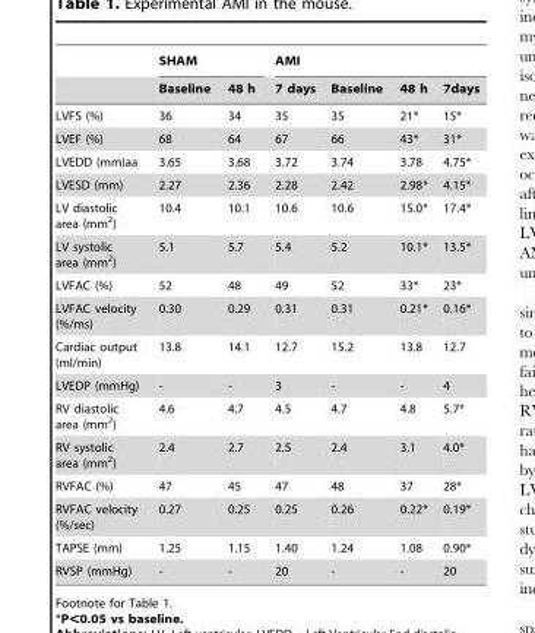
<table><thead><tr><td rowspan="2"></td><td colspan="2">SHAM</td><td colspan="4">AMI</td></tr><tr><td>Baseline</td><td>48 h</td><td>7 days</td><td>Baseline</td><td>48 h</td><td>7days</td></tr></thead><tbody><tr><td>LVFS (%)</td><td>36</td><td>34</td><td>35</td><td>35</td><td>21*</td><td>15*</td></tr><tr><td>LVEF (%)</td><td>68</td><td>64</td><td>67</td><td>66</td><td>43*</td><td>31*</td></tr><tr><td>LVEDD (mm)aa</td><td>3.65</td><td>3.68</td><td>3.72</td><td>3.74</td><td>3.78</td><td>4.75*</td></tr><tr><td>LVESD (mm)</td><td>2.27</td><td>2.36</td><td>2.28</td><td>2.42</td><td>2.98*</td><td>4.15*</td></tr><tr><td>LV diastolic area (mm<sup>2</sup>)</td><td>10.4</td><td>10.1</td><td>10.6</td><td>10.6</td><td>15.0*</td><td>17.4*</td></tr><tr><td>LV systolic area (mm<sup>2</sup>)</td><td>5.1</td><td>5.7</td><td>5.4</td><td>5.2</td><td>10.1*</td><td>13.5*</td></tr><tr><td>LVFAC (%)</td><td>52</td><td>48</td><td>49</td><td>52</td><td>33*</td><td>23*</td></tr><tr><td>LVFAC velocity (%/ms)</td><td>0.30</td><td>0.29</td><td>0.31</td><td>0.31</td><td>0.21*</td><td>0.16*</td></tr><tr><td>Cardiac output (ml/min)</td><td>13.8</td><td>14.1</td><td>12.7</td><td>15.2</td><td>13.8</td><td>12.7</td></tr><tr><td>LVEDP (mmHg)</td><td>-</td><td>-</td><td>3</td><td>-</td><td>-</td><td>4</td></tr><tr><td>RV diastolic area (mm<sup>2</sup>)</td><td>4.6</td><td>4.7</td><td>4.5</td><td>4.7</td><td>4.8</td><td>5.7*</td></tr><tr><td>RV systolic area (mm<sup>2</sup>)</td><td>2.4</td><td>2.7</td><td>2.5</td><td>2.4</td><td>3.1</td><td>4.0*</td></tr><tr><td>RVFAC (%)</td><td>47</td><td>45</td><td>47</td><td>48</td><td>37</td><td>28*</td></tr><tr><td>RVFAC velocity (%/sec)</td><td>0.27</td><td>0.25</td><td>0.25</td><td>0.26</td><td>0.22*</td><td>0.19*</td></tr><tr><td>TAPSE (mm)</td><td>1.25</td><td>1.15</td><td>1.40</td><td>1.24</td><td>1.08</td><td>0.90*</td></tr><tr><td>RVSP (mmHg)</td><td>-</td><td>-</td><td>20</td><td>-</td><td>-</td><td>20</td></tr></tbody></table>